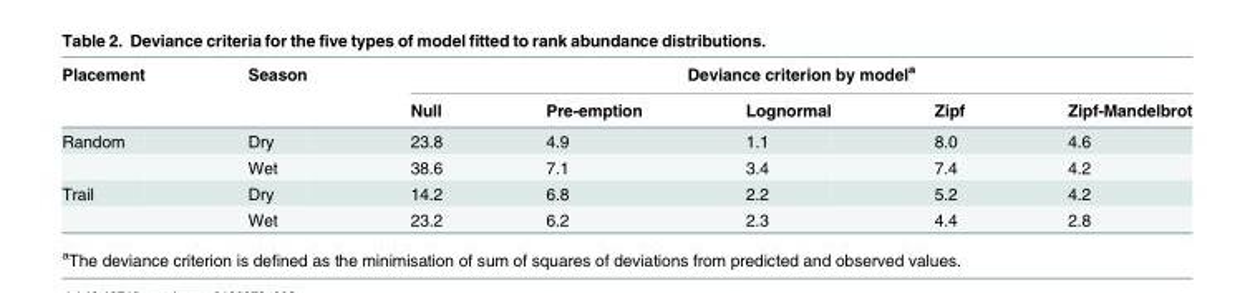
<table><thead><tr><td rowspan="2">Placement</td><td rowspan="2">Season</td><td colspan="5">Deviance criterion by model<sup>a</sup></td></tr><tr><td>Null</td><td>Pre-emption</td><td>Lognormal</td><td>Zipf</td><td>Zipf-Mandelbrot</td></tr></thead><tbody><tr><td rowspan="2">Random</td><td>Dry</td><td>23.8</td><td>4.9</td><td>1.1</td><td>8.0</td><td>4.6</td></tr><tr><td>Wet</td><td>38.6</td><td>7.1</td><td>3.4</td><td>7.4</td><td>4.2</td></tr><tr><td rowspan="2">Trail</td><td>Dry</td><td>14.2</td><td>6.8</td><td>2.2</td><td>5.2</td><td>4.2</td></tr><tr><td>Wet</td><td>23.2</td><td>6.2</td><td>2.3</td><td>4.4</td><td>2.8</td></tr></tbody></table>